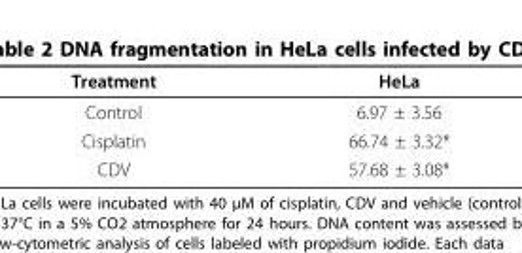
<table><thead><tr><td>Treatment</td><td>HeLa</td></tr></thead><tbody><tr><td>Control</td><td>6.97 ± 3.56</td></tr><tr><td>Cisplatin</td><td>66.74 ± 3.32*</td></tr><tr><td>CDV</td><td>57.68 ± 3.08*</td></tr></tbody></table>